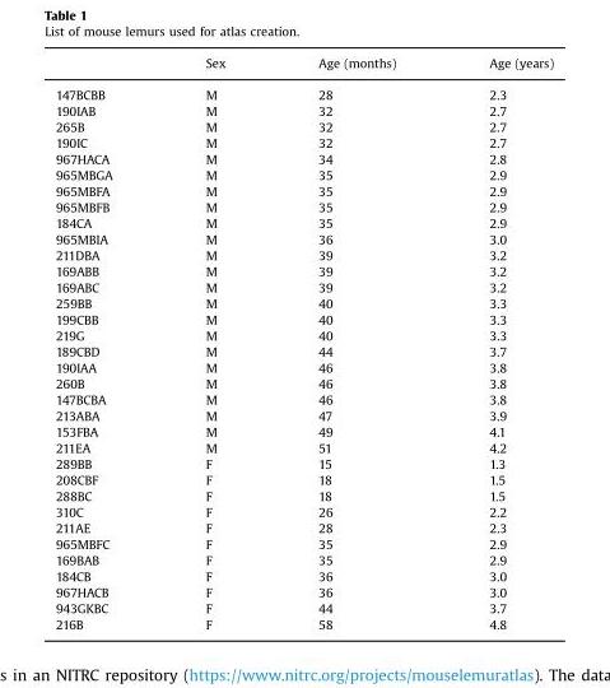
<table><thead><tr><td></td><td>Sex</td><td>Age (months)</td><td>Age (years)</td></tr></thead><tbody><tr><td>147BCBB</td><td>M</td><td>28</td><td>2.3</td></tr><tr><td>190IAB</td><td>M</td><td>32</td><td>2.7</td></tr><tr><td>265B</td><td>M</td><td>32</td><td>2.7</td></tr><tr><td>190IC</td><td>M</td><td>32</td><td>2.7</td></tr><tr><td>967HACA</td><td>M</td><td>34</td><td>2.8</td></tr><tr><td>965MBGA</td><td>M</td><td>35</td><td>2.9</td></tr><tr><td>965MBFA</td><td>M</td><td>35</td><td>2.9</td></tr><tr><td>965MBFB</td><td>M</td><td>35</td><td>2.9</td></tr><tr><td>184CA</td><td>M</td><td>35</td><td>2.9</td></tr><tr><td>965MBIA</td><td>M</td><td>36</td><td>3.0</td></tr><tr><td>211DBA</td><td>M</td><td>39</td><td>3.2</td></tr><tr><td>169ABB</td><td>M</td><td>39</td><td>3.2</td></tr><tr><td>169ABC</td><td>M</td><td>39</td><td>3.2</td></tr><tr><td>259BB</td><td>M</td><td>40</td><td>3.3</td></tr><tr><td>199CBB</td><td>M</td><td>40</td><td>3.3</td></tr><tr><td>219G</td><td>M</td><td>40</td><td>3.3</td></tr><tr><td>189CBD</td><td>M</td><td>44</td><td>3.7</td></tr><tr><td>190IAA</td><td>M</td><td>46</td><td>3.8</td></tr><tr><td>260B</td><td>M</td><td>46</td><td>3.8</td></tr><tr><td>147BCBA</td><td>M</td><td>46</td><td>3.8</td></tr><tr><td>213ABA</td><td>M</td><td>47</td><td>3.9</td></tr><tr><td>153FBA</td><td>M</td><td>49</td><td>4.1</td></tr><tr><td>211EA</td><td>M</td><td>51</td><td>4.2</td></tr><tr><td>289BB</td><td>F</td><td>15</td><td>1.3</td></tr><tr><td>208CBF</td><td>F</td><td>18</td><td>1.5</td></tr><tr><td>288BC</td><td>F</td><td>18</td><td>1.5</td></tr><tr><td>310C</td><td>F</td><td>26</td><td>2.2</td></tr><tr><td>211AE</td><td>F</td><td>28</td><td>2.3</td></tr><tr><td>965MBFC</td><td>F</td><td>35</td><td>2.9</td></tr><tr><td>169BAB</td><td>F</td><td>35</td><td>2.9</td></tr><tr><td>184CB</td><td>F</td><td>36</td><td>3.0</td></tr><tr><td>967HACB</td><td>F</td><td>36</td><td>3.0</td></tr><tr><td>943GKBC</td><td>F</td><td>44</td><td>3.7</td></tr><tr><td>216B</td><td>F</td><td>58</td><td>4.8</td></tr></tbody></table>